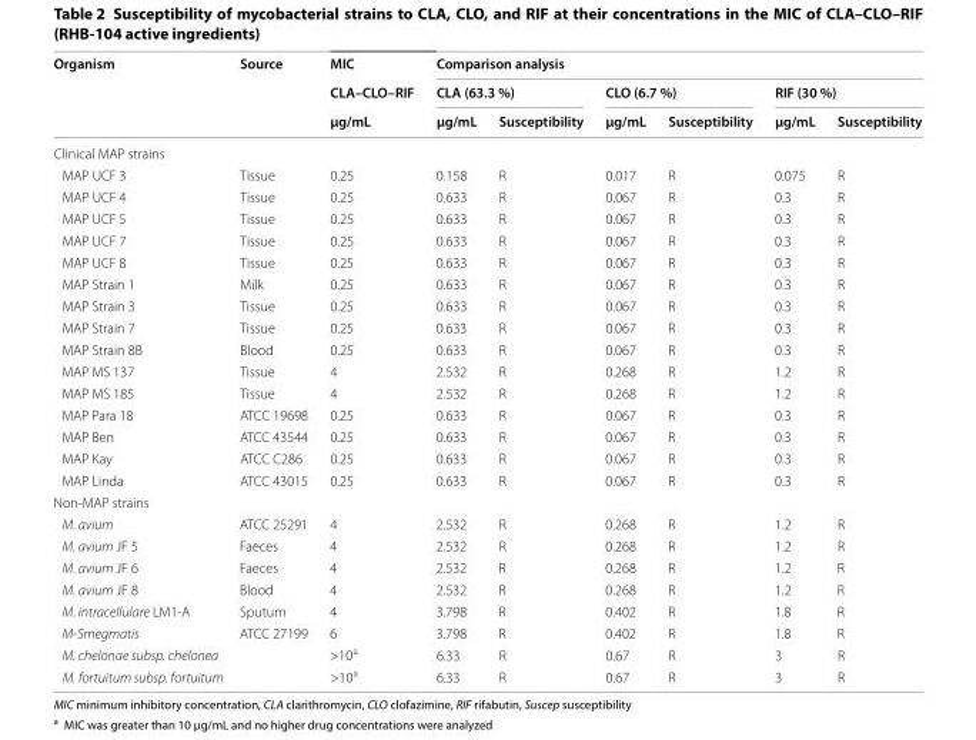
<table><thead><tr><td rowspan="3">Organism</td><td rowspan="3">Source</td><td rowspan="3">MIC CLA–CLO–RIF μg/mL</td><td colspan="6">Comparison analysis</td></tr><tr><td colspan="2">CLA (63.3 %)</td><td colspan="2">CLO (6.7 %)</td><td colspan="2">RIF (30 %)</td></tr><tr><td>μg/mL</td><td>Susceptibility</td><td>μg/mL</td><td>Susceptibility</td><td>μg/mL</td><td>Susceptibility</td></tr></thead><tbody><tr><td colspan="9">Clinical MAP strains</td></tr><tr><td>MAP UCF 3</td><td>Tissue</td><td>0.25</td><td>0.158</td><td>R</td><td>0.017</td><td>R</td><td>0.075</td><td>R</td></tr><tr><td>MAP UCF 4</td><td>Tissue</td><td>0.25</td><td>0.633</td><td>R</td><td>0.067</td><td>R</td><td>0.3</td><td>R</td></tr><tr><td>MAP UCF 5</td><td>Tissue</td><td>0.25</td><td>0.633</td><td>R</td><td>0.067</td><td>R</td><td>0.3</td><td>R</td></tr><tr><td>MAP UCF 7</td><td>Tissue</td><td>0.25</td><td>0.633</td><td>R</td><td>0.067</td><td>R</td><td>0.3</td><td>R</td></tr><tr><td>MAP UCF 8</td><td>Tissue</td><td>0.25</td><td>0.633</td><td>R</td><td>0.067</td><td>R</td><td>0.3</td><td>R</td></tr><tr><td>MAP Strain 1</td><td>Milk</td><td>0.25</td><td>0.633</td><td>R</td><td>0.067</td><td>R</td><td>0.3</td><td>R</td></tr><tr><td>MAP Strain 3</td><td>Tissue</td><td>0.25</td><td>0.633</td><td>R</td><td>0.067</td><td>R</td><td>0.3</td><td>R</td></tr><tr><td>MAP Strain 7</td><td>Tissue</td><td>0.25</td><td>0.633</td><td>R</td><td>0.067</td><td>R</td><td>0.3</td><td>R</td></tr><tr><td>MAP Strain 8B</td><td>Blood</td><td>0.25</td><td>0.633</td><td>R</td><td>0.067</td><td>R</td><td>0.3</td><td>R</td></tr><tr><td>MAP MS 137</td><td>Tissue</td><td>4</td><td>2.532</td><td>R</td><td>0.268</td><td>R</td><td>1.2</td><td>R</td></tr><tr><td>MAP MS 185</td><td>Tissue</td><td>4</td><td>2.532</td><td>R</td><td>0.268</td><td>R</td><td>1.2</td><td>R</td></tr><tr><td>MAP Para 18</td><td>ATCC 19698</td><td>0.25</td><td>0.633</td><td>R</td><td>0.067</td><td>R</td><td>0.3</td><td>R</td></tr><tr><td>MAP Ben</td><td>ATCC 43544</td><td>0.25</td><td>0.633</td><td>R</td><td>0.067</td><td>R</td><td>0.3</td><td>R</td></tr><tr><td>MAP Kay</td><td>ATCC C286</td><td>0.25</td><td>0.633</td><td>R</td><td>0.067</td><td>R</td><td>0.3</td><td>R</td></tr><tr><td>MAP Linda</td><td>ATCC 43015</td><td>0.25</td><td>0.633</td><td>R</td><td>0.067</td><td>R</td><td>0.3</td><td>R</td></tr><tr><td colspan="9">Non-MAP strains</td></tr><tr><td>M. avium</td><td>ATCC 25291</td><td>4</td><td>2.532</td><td>R</td><td>0.268</td><td>R</td><td>1.2</td><td>R</td></tr><tr><td>M. avium JF 5</td><td>Faeces</td><td>4</td><td>2.532</td><td>R</td><td>0.268</td><td>R</td><td>1.2</td><td>R</td></tr><tr><td>M. avium JF 6</td><td>Faeces</td><td>4</td><td>2.532</td><td>R</td><td>0.268</td><td>R</td><td>1.2</td><td>R</td></tr><tr><td>M. avium JF 8</td><td>Blood</td><td>4</td><td>2.532</td><td>R</td><td>0.268</td><td>R</td><td>1.2</td><td>R</td></tr><tr><td>M. intracellulare LM1-A</td><td>Sputum</td><td>4</td><td>3.798</td><td>R</td><td>0.402</td><td>R</td><td>1.8</td><td>R</td></tr><tr><td>M-Smegmatis</td><td>ATCC 27199</td><td>6</td><td>3.798</td><td>R</td><td>0.402</td><td>R</td><td>1.8</td><td>R</td></tr><tr><td>M. chelonae subsp. chelonea</td><td></td><td>&gt;10<sup>a</sup></td><td>6.33</td><td>R</td><td>0.67</td><td>R</td><td>3</td><td>R</td></tr><tr><td>M. fortuitum subsp. fortuitum</td><td></td><td>&gt;10<sup>a</sup></td><td>6.33</td><td>R</td><td>0.67</td><td>R</td><td>3</td><td>R</td></tr></tbody></table>